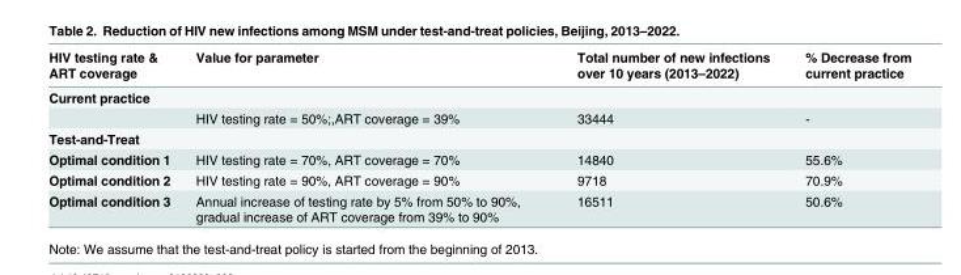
<table><thead><tr><td>HIV testing rate &amp; ART coverage</td><td>Value for parameter</td><td>Total number of new infections over 10 years (2013–2022)</td><td>% Decrease from current practice</td></tr></thead><tbody><tr><td colspan="4">Current practice</td></tr><tr><td></td><td>HIV testing rate = 50%;,ART coverage = 39%</td><td>33444</td><td>-</td></tr><tr><td colspan="4">Test-and-Treat</td></tr><tr><td>Optimal condition 1</td><td>HIV testing rate = 70%, ART coverage = 70%</td><td>14840</td><td>55.6%</td></tr><tr><td>Optimal condition 2</td><td>HIV testing rate = 90%, ART coverage = 90%</td><td>9718</td><td>70.9%</td></tr><tr><td>Optimal condition 3</td><td>Annual increase of testing rate by 5% from 50% to 90%, gradual increase of ART coverage from 39% to 90%</td><td>16511</td><td>50.6%</td></tr></tbody></table>